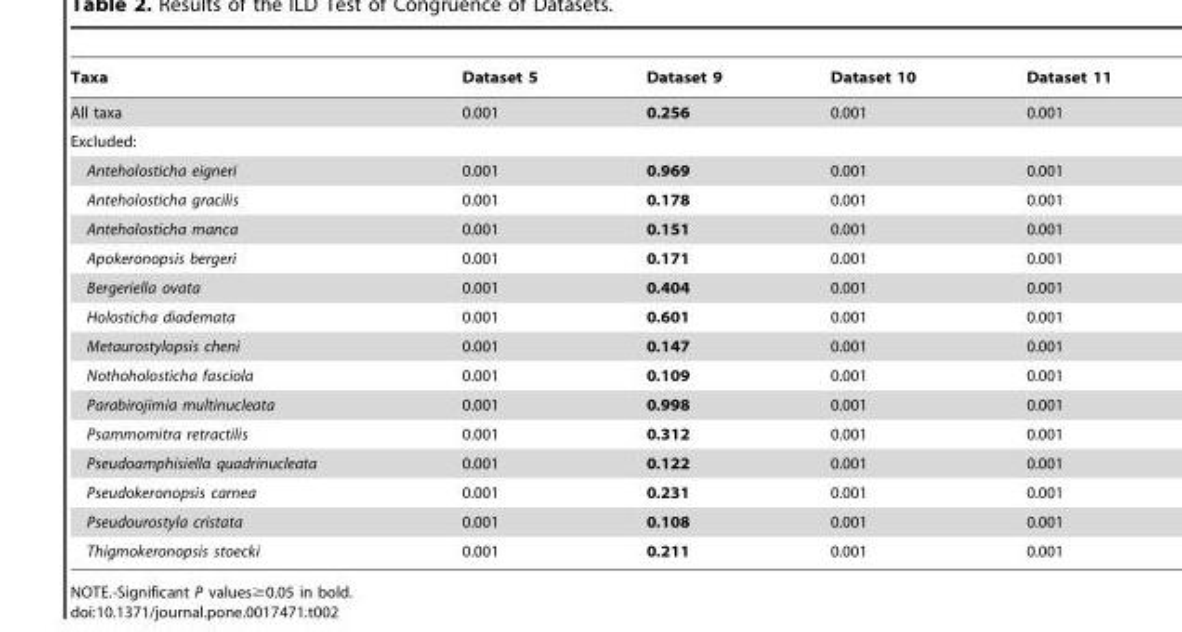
<table><thead><tr><td>Taxa</td><td>Dataset 5</td><td>Dataset 9</td><td>Dataset 10</td><td>Dataset 11</td></tr></thead><tbody><tr><td>All taxa</td><td>0.001</td><td>0.256</td><td>0.001</td><td>0.001</td></tr><tr><td colspan="5">Excluded:</td></tr><tr><td>Anteholosticha eigneri</td><td>0.001</td><td>0.969</td><td>0.001</td><td>0.001</td></tr><tr><td>Anteholosticha gracilis</td><td>0.001</td><td>0.178</td><td>0.001</td><td>0.001</td></tr><tr><td>Anteholosticha manca</td><td>0.001</td><td>0.151</td><td>0.001</td><td>0.001</td></tr><tr><td>Apokeronopsis bergeri</td><td>0.001</td><td>0.171</td><td>0.001</td><td>0.001</td></tr><tr><td>Bergeriella ovata</td><td>0.001</td><td>0.404</td><td>0.001</td><td>0.001</td></tr><tr><td>Holosticha diademata</td><td>0.001</td><td>0.601</td><td>0.001</td><td>0.001</td></tr><tr><td>Metaurostylopsis cheni</td><td>0.001</td><td>0.147</td><td>0.001</td><td>0.001</td></tr><tr><td>Nothoholosticha fasciola</td><td>0.001</td><td>0.109</td><td>0.001</td><td>0.001</td></tr><tr><td>Parabirojimia multinucleata</td><td>0.001</td><td>0.998</td><td>0.001</td><td>0.001</td></tr><tr><td>Psammomitra retractilis</td><td>0.001</td><td>0.312</td><td>0.001</td><td>0.001</td></tr><tr><td>Pseudoamphisiella quadrinucleata</td><td>0.001</td><td>0.122</td><td>0.001</td><td>0.001</td></tr><tr><td>Pseudokeronopsis carnea</td><td>0.001</td><td>0.231</td><td>0.001</td><td>0.001</td></tr><tr><td>Pseudourostyla cristata</td><td>0.001</td><td>0.108</td><td>0.001</td><td>0.001</td></tr><tr><td>Thigmokeronopsis stoecki</td><td>0.001</td><td>0.211</td><td>0.001</td><td>0.001</td></tr></tbody></table>